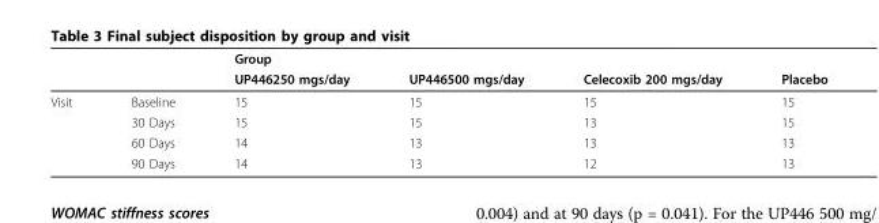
<table><thead><tr><td rowspan="2"></td><td rowspan="2"></td><td colspan="4">Group</td></tr><tr><td>UP446250 mgs/day</td><td>UP446500 mgs/day</td><td>Celecoxib 200 mgs/day</td><td>Placebo</td></tr></thead><tbody><tr><td rowspan="4">Visit</td><td>Baseline</td><td>15</td><td>15</td><td>15</td><td>15</td></tr><tr><td>30 Days</td><td>15</td><td>15</td><td>13</td><td>15</td></tr><tr><td>60 Days</td><td>14</td><td>13</td><td>13</td><td>13</td></tr><tr><td>90 Days</td><td>14</td><td>13</td><td>12</td><td>13</td></tr></tbody></table>